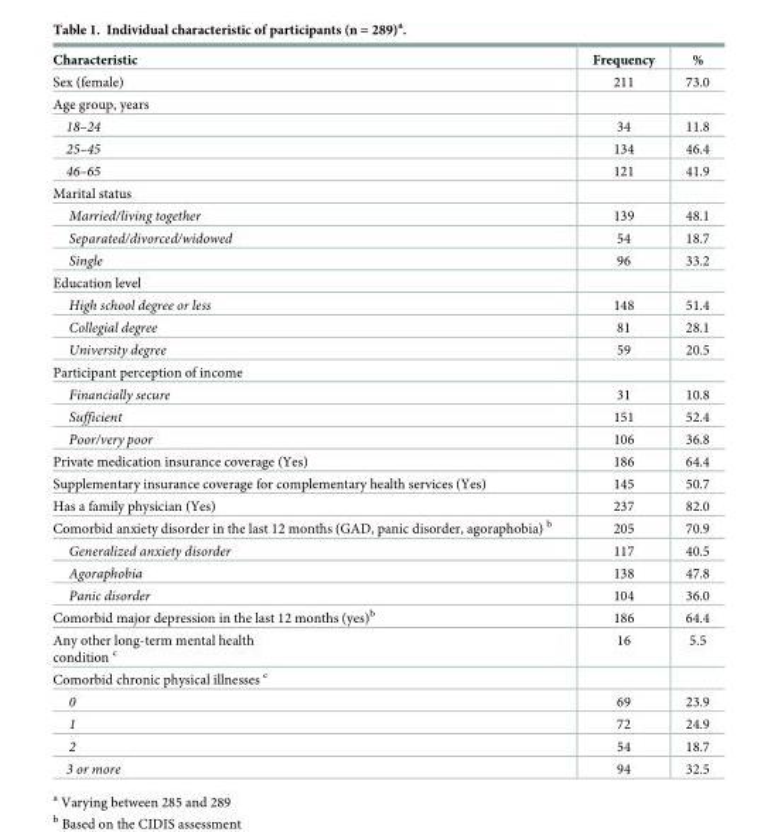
<table><thead><tr><td>Characteristic</td><td>Frequency</td><td>%</td></tr></thead><tbody><tr><td>Sex (female)</td><td>211</td><td>73.0</td></tr><tr><td colspan="3">Age group, years</td></tr><tr><td>18–24</td><td>34</td><td>11.8</td></tr><tr><td>25–45</td><td>134</td><td>46.4</td></tr><tr><td>46–65</td><td>121</td><td>41.9</td></tr><tr><td colspan="3">Marital status</td></tr><tr><td>Married/living together</td><td>139</td><td>48.1</td></tr><tr><td>Separated/divorced/widowed</td><td>54</td><td>18.7</td></tr><tr><td>Single</td><td>96</td><td>33.2</td></tr><tr><td colspan="3">Education level</td></tr><tr><td>High school degree or less</td><td>148</td><td>51.4</td></tr><tr><td>Collegial degree</td><td>81</td><td>28.1</td></tr><tr><td>University degree</td><td>59</td><td>20.5</td></tr><tr><td colspan="3">Participant perception of income</td></tr><tr><td>Financially secure</td><td>31</td><td>10.8</td></tr><tr><td>Sufficient</td><td>151</td><td>52.4</td></tr><tr><td>Poor/very poor</td><td>106</td><td>36.8</td></tr><tr><td>Private medication insurance coverage (Yes)</td><td>186</td><td>64.4</td></tr><tr><td>Supplementary insurance coverage for complementary health services (Yes)</td><td>145</td><td>50.7</td></tr><tr><td>Has a family physician (Yes)</td><td>237</td><td>82.0</td></tr><tr><td>Comorbid anxiety disorder in the last 12 months (GAD, panic disorder, agoraphobia) <sup>b</sup></td><td>205</td><td>70.9</td></tr><tr><td>Generalized anxiety disorder</td><td>117</td><td>40.5</td></tr><tr><td>Agoraphobia</td><td>138</td><td>47.8</td></tr><tr><td>Panic disorder</td><td>104</td><td>36.0</td></tr><tr><td>Comorbid major depression in the last 12 months (yes)<sup>b</sup></td><td>186</td><td>64.4</td></tr><tr><td>Any other long-term mental health condition <sup>c</sup></td><td>16</td><td>5.5</td></tr><tr><td colspan="3">Comorbid chronic physical illnesses <sup>c</sup></td></tr><tr><td>0</td><td>69</td><td>23.9</td></tr><tr><td>1</td><td>72</td><td>24.9</td></tr><tr><td>2</td><td>54</td><td>18.7</td></tr><tr><td>3 or more</td><td>94</td><td>32.5</td></tr></tbody></table>